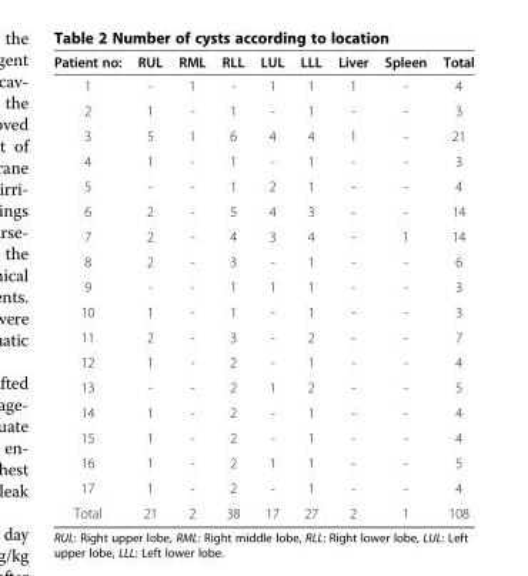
<table><thead><tr><td>Patient no:</td><td>RUL</td><td>RML</td><td>RLL</td><td>LUL</td><td>LLL</td><td>Liver</td><td>Spleen</td><td>Total</td></tr></thead><tbody><tr><td>1</td><td>-</td><td>1</td><td>-</td><td>1</td><td>1</td><td>1</td><td>-</td><td>4</td></tr><tr><td>2</td><td>1</td><td>-</td><td>1</td><td>-</td><td>1</td><td>-</td><td>-</td><td>3</td></tr><tr><td>3</td><td>5</td><td>1</td><td>6</td><td>4</td><td>4</td><td>1</td><td>-</td><td>21</td></tr><tr><td>4</td><td>1</td><td>-</td><td>1</td><td>-</td><td>1</td><td>-</td><td>-</td><td>3</td></tr><tr><td>5</td><td>-</td><td>-</td><td>1</td><td>2</td><td>1</td><td>-</td><td>-</td><td>4</td></tr><tr><td>6</td><td>2</td><td>-</td><td>5</td><td>4</td><td>3</td><td>-</td><td>-</td><td>14</td></tr><tr><td>7</td><td>2</td><td>-</td><td>4</td><td>3</td><td>4</td><td>-</td><td>1</td><td>14</td></tr><tr><td>8</td><td>2</td><td>-</td><td>3</td><td>-</td><td>1</td><td>-</td><td>-</td><td>6</td></tr><tr><td>9</td><td>-</td><td>-</td><td>1</td><td>1</td><td>1</td><td>-</td><td>-</td><td>3</td></tr><tr><td>10</td><td>1</td><td>-</td><td>1</td><td>-</td><td>1</td><td>-</td><td>-</td><td>3</td></tr><tr><td>11</td><td>2</td><td>-</td><td>3</td><td>-</td><td>2</td><td>-</td><td>-</td><td>7</td></tr><tr><td>12</td><td>1</td><td>-</td><td>2</td><td>-</td><td>1</td><td>-</td><td>-</td><td>4</td></tr><tr><td>13</td><td>-</td><td>-</td><td>2</td><td>1</td><td>2</td><td>-</td><td>-</td><td>5</td></tr><tr><td>14</td><td>1</td><td>-</td><td>2</td><td>-</td><td>1</td><td>-</td><td>-</td><td>4</td></tr><tr><td>15</td><td>1</td><td>-</td><td>2</td><td>-</td><td>1</td><td>-</td><td>-</td><td>4</td></tr><tr><td>16</td><td>1</td><td>-</td><td>2</td><td>1</td><td>1</td><td>-</td><td>-</td><td>5</td></tr><tr><td>17</td><td>1</td><td>-</td><td>2</td><td>-</td><td>1</td><td>-</td><td>-</td><td>4</td></tr><tr><td>Total</td><td>21</td><td>2</td><td>38</td><td>17</td><td>27</td><td>2</td><td>1</td><td>108</td></tr></tbody></table>